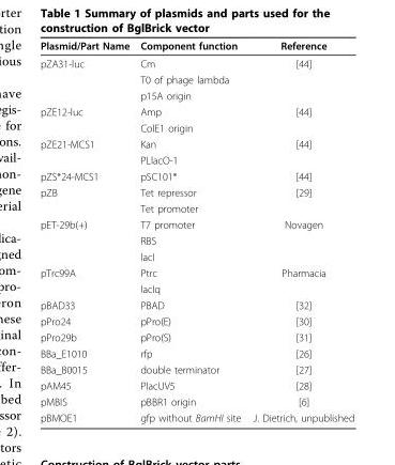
<table><thead><tr><td>Plasmid/Part Name</td><td>Component function</td><td>Reference</td></tr></thead><tbody><tr><td rowspan="3">pZA31-luc</td><td>Cm</td><td>[44]</td></tr><tr><td>T0 of phage lambda</td><td></td></tr><tr><td>p15A origin</td><td></td></tr><tr><td rowspan="2">pZE12-luc</td><td>Amp</td><td>[44]</td></tr><tr><td>ColE1 origin</td><td></td></tr><tr><td rowspan="2">pZE21-MCS1</td><td>Kan</td><td>[44]</td></tr><tr><td>PLlacO-1</td><td></td></tr><tr><td>pZS*24-MCS1</td><td>pSC101*</td><td>[44]</td></tr><tr><td rowspan="2">pZB</td><td>Tet repressor</td><td>[29]</td></tr><tr><td>Tet promoter</td><td></td></tr><tr><td rowspan="3">pET-29b(+)</td><td>T7 promoter</td><td>Novagen</td></tr><tr><td>RBS</td><td></td></tr><tr><td>lacI</td><td></td></tr><tr><td rowspan="2">pTrc99A</td><td>Ptrc</td><td>Pharmacia</td></tr><tr><td>lacIq</td><td></td></tr><tr><td>pBAD33</td><td>PBAD</td><td>[32]</td></tr><tr><td>pPro24</td><td>pPro(E)</td><td>[30]</td></tr><tr><td>pPro29b</td><td>pPro(S)</td><td>[31]</td></tr><tr><td>BBa_E1010</td><td>rfp</td><td>[26]</td></tr><tr><td>BBa_B0015</td><td>double terminator</td><td>[27]</td></tr><tr><td>pAM45</td><td>PlacUV5</td><td>[28]</td></tr><tr><td>pMBIS</td><td>pBBR1 origin</td><td>[6]</td></tr><tr><td>pBMOE1</td><td>gfp without BamHI site</td><td>J. Dietrich, unpublished</td></tr></tbody></table>